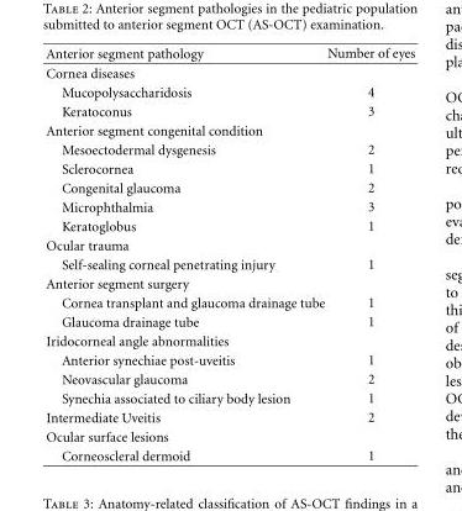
<table><thead><tr><td>Anterior segment pathology</td><td>Number of eyes</td></tr></thead><tbody><tr><td colspan="2">Cornea diseases</td></tr><tr><td>Mucopolysaccharidosis</td><td>4</td></tr><tr><td>Keratoconus</td><td>3</td></tr><tr><td colspan="2">Anterior segment congenital condition</td></tr><tr><td>Mesoectodermal dysgenesis</td><td>2</td></tr><tr><td>Sclerocornea</td><td>1</td></tr><tr><td>Congenital glaucoma</td><td>2</td></tr><tr><td>Microphthalmia</td><td>3</td></tr><tr><td>Keratoglobus</td><td>1</td></tr><tr><td colspan="2">Ocular trauma</td></tr><tr><td>Self-sealing corneal penetrating injury</td><td>1</td></tr><tr><td colspan="2">Anterior segment surgery</td></tr><tr><td>Cornea transplant and glaucoma drainage tube</td><td>1</td></tr><tr><td>Glaucoma drainage tube</td><td>1</td></tr><tr><td colspan="2">Iridocorneal angle abnormalities</td></tr><tr><td>Anterior synechiae post-uveitis</td><td>1</td></tr><tr><td>Neovascular glaucoma</td><td>2</td></tr><tr><td>Synechia associated to ciliary body lesion</td><td>1</td></tr><tr><td>Intermediate Uveitis</td><td>2</td></tr><tr><td colspan="2">Ocular surface lesions</td></tr><tr><td>Corneoscleral dermoid</td><td>1</td></tr></tbody></table>